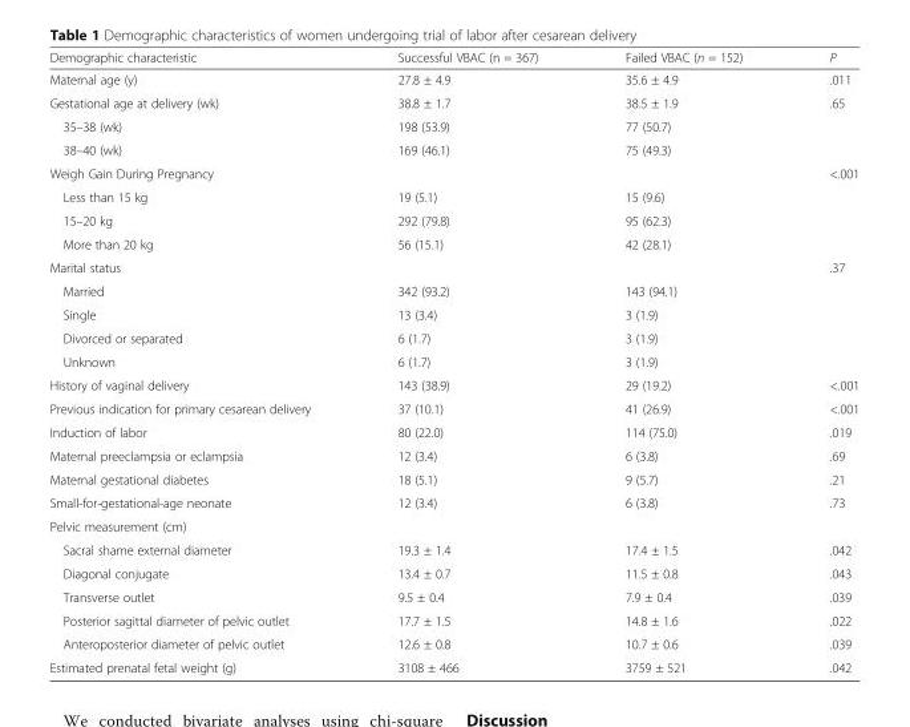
<table><thead><tr><td>Demographic characteristic</td><td>Successful VBAC (n = 367)</td><td>Failed VBAC (n = 152)</td><td>P</td></tr></thead><tbody><tr><td>Maternal age (y)</td><td>27.8 ± 4.9</td><td>35.6 ± 4.9</td><td>.011</td></tr><tr><td>Gestational age at delivery (wk)</td><td>38.8 ± 1.7</td><td>38.5 ± 1.9</td><td>.65</td></tr><tr><td>35–38 (wk)</td><td>198 (53.9)</td><td>77 (50.7)</td><td></td></tr><tr><td>38–40 (wk)</td><td>169 (46.1)</td><td>75 (49.3)</td><td></td></tr><tr><td colspan="3">Weigh Gain During Pregnancy</td><td>&lt;.001</td></tr><tr><td>Less than 15 kg</td><td>19 (5.1)</td><td>15 (9.6)</td><td></td></tr><tr><td>15–20 kg</td><td>292 (79.8)</td><td>95 (62.3)</td><td></td></tr><tr><td>More than 20 kg</td><td>56 (15.1)</td><td>42 (28.1)</td><td></td></tr><tr><td colspan="3">Marital status</td><td>.37</td></tr><tr><td>Married</td><td>342 (93.2)</td><td>143 (94.1)</td><td></td></tr><tr><td>Single</td><td>13 (3.4)</td><td>3 (1.9)</td><td></td></tr><tr><td>Divorced or separated</td><td>6 (1.7)</td><td>3 (1.9)</td><td></td></tr><tr><td>Unknown</td><td>6 (1.7)</td><td>3 (1.9)</td><td></td></tr><tr><td>History of vaginal delivery</td><td>143 (38.9)</td><td>29 (19.2)</td><td>&lt;.001</td></tr><tr><td>Previous indication for primary cesarean delivery</td><td>37 (10.1)</td><td>41 (26.9)</td><td>&lt;.001</td></tr><tr><td>Induction of labor</td><td>80 (22.0)</td><td>114 (75.0)</td><td>.019</td></tr><tr><td>Maternal preeclampsia or eclampsia</td><td>12 (3.4)</td><td>6 (3.8)</td><td>.69</td></tr><tr><td>Maternal gestational diabetes</td><td>18 (5.1)</td><td>9 (5.7)</td><td>.21</td></tr><tr><td>Small-for-gestational-age neonate</td><td>12 (3.4)</td><td>6 (3.8)</td><td>.73</td></tr><tr><td colspan="4">Pelvic measurement (cm)</td></tr><tr><td>Sacral shame external diameter</td><td>19.3 ± 1.4</td><td>17.4 ± 1.5</td><td>.042</td></tr><tr><td>Diagonal conjugate</td><td>13.4 ± 0.7</td><td>11.5 ± 0.8</td><td>.043</td></tr><tr><td>Transverse outlet</td><td>9.5 ± 0.4</td><td>7.9 ± 0.4</td><td>.039</td></tr><tr><td>Posterior sagittal diameter of pelvic outlet</td><td>17.7 ± 1.5</td><td>14.8 ± 1.6</td><td>.022</td></tr><tr><td>Anteroposterior diameter of pelvic outlet</td><td>12.6 ± 0.8</td><td>10.7 ± 0.6</td><td>.039</td></tr><tr><td>Estimated prenatal fetal weight (g)</td><td>3108 ± 466</td><td>3759 ± 521</td><td>.042</td></tr></tbody></table>